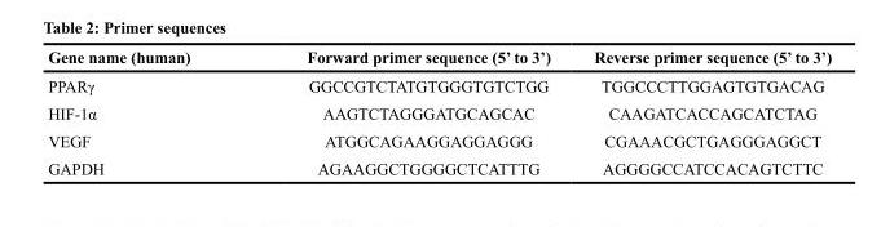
<table><thead><tr><td>Gene name (human)</td><td>Forward primer sequence (5’ to 3’)</td><td>Reverse primer sequence (5’ to 3’)</td></tr></thead><tbody><tr><td>PPARγ</td><td>GGCCGTCTATGTGGGTGTCTGG</td><td>TGGCCCTTGGAGTGTGACAG</td></tr><tr><td>HIF-1α</td><td>AAGTCTAGGGATGCAGCAC</td><td>CAAGATCACCAGCATCTAG</td></tr><tr><td>VEGF</td><td>ATGGCAGAAGGAGGAGGG</td><td>CGAAACGCTGAGGGAGGCT</td></tr><tr><td>GAPDH</td><td>AGAAGGCTGGGGCTCATTTG</td><td>AGGGGCCATCCACAGTCTTC</td></tr></tbody></table>